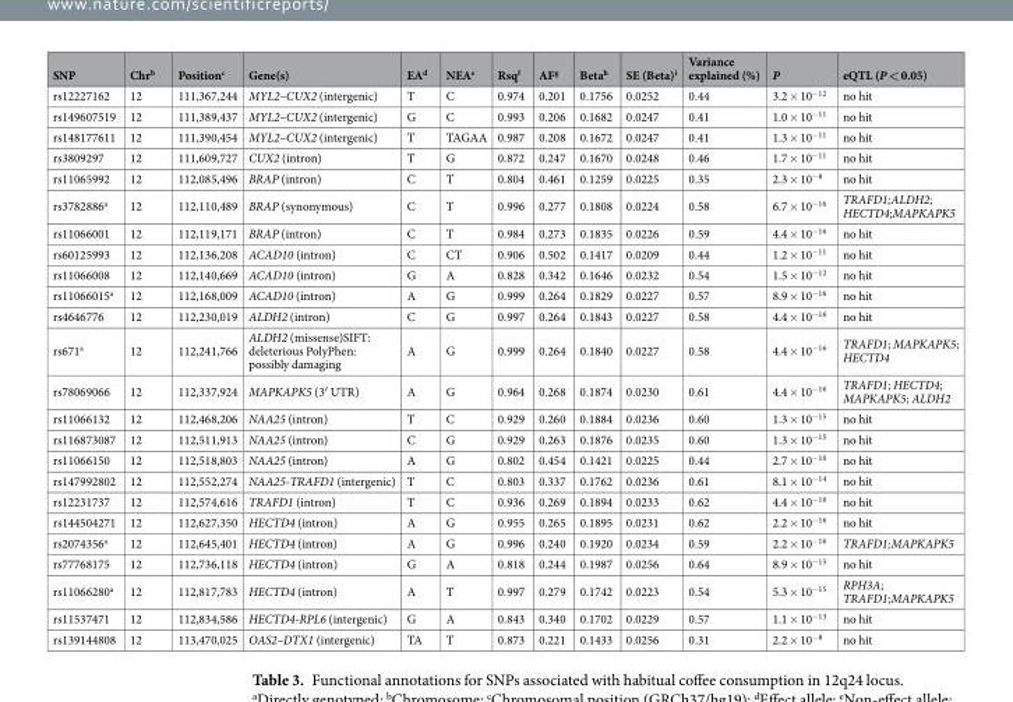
<table><thead><tr><td>SNP</td><td>Chr<sup>b</sup></td><td>Position<sup>c</sup></td><td>Gene(s)</td><td>EA<sup>d</sup></td><td>NEA<sup>e</sup></td><td>Rsq<sup>f</sup></td><td>AF<sup>g</sup></td><td>Beta<sup>h</sup></td><td>SE (Beta)<sup>i</sup></td><td>Variance explained (%)</td><td>P</td><td>eQTL (P &lt; 0.05)</td></tr></thead><tbody><tr><td>rs12227162</td><td>12</td><td>111,367,244</td><td>MYL2–CUX2 (intergenic)</td><td>T</td><td>C</td><td>0.974</td><td>0.201</td><td>0.1756</td><td>0.0252</td><td>0.44</td><td>3.2 × 10<sup>−12</sup></td><td>no hit</td></tr><tr><td>rs149607519</td><td>12</td><td>111,389,437</td><td>MYL2–CUX2 (intergenic)</td><td>G</td><td>C</td><td>0.993</td><td>0.206</td><td>0.1682</td><td>0.0247</td><td>0.41</td><td>1.0 × 10<sup>−11</sup></td><td>no hit</td></tr><tr><td>rs148177611</td><td>12</td><td>111,390,454</td><td>MYL2–CUX2 (intergenic)</td><td>T</td><td>TAGAA</td><td>0.987</td><td>0.208</td><td>0.1672</td><td>0.0247</td><td>0.41</td><td>1.3 × 10<sup>−11</sup></td><td>no hit</td></tr><tr><td>rs3809297</td><td>12</td><td>111,609,727</td><td>CUX2 (intron)</td><td>T</td><td>G</td><td>0.872</td><td>0.247</td><td>0.1670</td><td>0.0248</td><td>0.46</td><td>1.7 × 10<sup>−11</sup></td><td>no hit</td></tr><tr><td>rs11065992</td><td>12</td><td>112,085,496</td><td>BRAP (intron)</td><td>C</td><td>T</td><td>0.804</td><td>0.461</td><td>0.1259</td><td>0.0225</td><td>0.35</td><td>2.3 × 10<sup>−8</sup></td><td>no hit</td></tr><tr><td>rs3782886<sup>a</sup></td><td>12</td><td>112,110,489</td><td>BRAP (synonymous)</td><td>C</td><td>T</td><td>0.996</td><td>0.277</td><td>0.1808</td><td>0.0224</td><td>0.58</td><td>6.7 × 10<sup>−16</sup></td><td>TRAFD1;ALDH2; HECTD4;MAPKAPK5</td></tr><tr><td>rs11066001</td><td>12</td><td>112,119,171</td><td>BRAP (intron)</td><td>C</td><td>T</td><td>0.984</td><td>0.273</td><td>0.1835</td><td>0.0226</td><td>0.59</td><td>4.4 × 10<sup>−16</sup></td><td>no hit</td></tr><tr><td>rs60125993</td><td>12</td><td>112,136,208</td><td>ACAD10 (intron)</td><td>C</td><td>CT</td><td>0.906</td><td>0.502</td><td>0.1417</td><td>0.0209</td><td>0.44</td><td>1.2 × 10<sup>−11</sup></td><td>no hit</td></tr><tr><td>rs11066008</td><td>12</td><td>112,140,669</td><td>ACAD10 (intron)</td><td>G</td><td>A</td><td>0.828</td><td>0.342</td><td>0.1646</td><td>0.0232</td><td>0.54</td><td>1.5 × 10<sup>−12</sup></td><td>no hit</td></tr><tr><td>rs11066015<sup>a</sup></td><td>12</td><td>112,168,009</td><td>ACAD10 (intron)</td><td>A</td><td>G</td><td>0.999</td><td>0.264</td><td>0.1829</td><td>0.0227</td><td>0.57</td><td>8.9 × 10<sup>−16</sup></td><td>no hit</td></tr><tr><td>rs4646776</td><td>12</td><td>112,230,019</td><td>ALDH2 (intron)</td><td>C</td><td>G</td><td>0.997</td><td>0.264</td><td>0.1843</td><td>0.0227</td><td>0.58</td><td>4.4 × 10<sup>−16</sup></td><td>no hit</td></tr><tr><td>rs671<sup>a</sup></td><td>12</td><td>112,241,766</td><td>ALDH2 (missense)SIFT: deleterious PolyPhen: possibly damaging</td><td>A</td><td>G</td><td>0.999</td><td>0.264</td><td>0.1840</td><td>0.0227</td><td>0.58</td><td>4.4 × 10<sup>−16</sup></td><td>TRAFD1; MAPKAPK5; HECTD4</td></tr><tr><td>rs78069066</td><td>12</td><td>112,337,924</td><td>MAPKAPK5 (3′ UTR)</td><td>A</td><td>G</td><td>0.964</td><td>0.268</td><td>0.1874</td><td>0.0230</td><td>0.61</td><td>4.4 × 10<sup>−16</sup></td><td>TRAFD1; HECTD4; MAPKAPK5; ALDH2</td></tr><tr><td>rs11066132</td><td>12</td><td>112,468,206</td><td>NAA25 (intron)</td><td>T</td><td>C</td><td>0.929</td><td>0.260</td><td>0.1884</td><td>0.0236</td><td>0.60</td><td>1.3 × 10<sup>−15</sup></td><td>no hit</td></tr><tr><td>rs116873087</td><td>12</td><td>112,511,913</td><td>NAA25 (intron)</td><td>C</td><td>G</td><td>0.929</td><td>0.263</td><td>0.1876</td><td>0.0235</td><td>0.60</td><td>1.3 × 10<sup>−15</sup></td><td>no hit</td></tr><tr><td>rs11066150</td><td>12</td><td>112,518,803</td><td>NAA25 (intron)</td><td>A</td><td>G</td><td>0.802</td><td>0.454</td><td>0.1421</td><td>0.0225</td><td>0.44</td><td>2.7 × 10<sup>−10</sup></td><td>no hit</td></tr><tr><td>rs147992802</td><td>12</td><td>112,552,274</td><td>NAA25-TRAFD1 (intergenic)</td><td>T</td><td>C</td><td>0.803</td><td>0.337</td><td>0.1762</td><td>0.0236</td><td>0.61</td><td>8.1 × 10<sup>−14</sup></td><td>no hit</td></tr><tr><td>rs12231737</td><td>12</td><td>112,574,616</td><td>TRAFD1 (intron)</td><td>T</td><td>C</td><td>0.936</td><td>0.269</td><td>0.1894</td><td>0.0233</td><td>0.62</td><td>4.4 × 10<sup>−16</sup></td><td>no hit</td></tr><tr><td>rs144504271</td><td>12</td><td>112,627,350</td><td>HECTD4 (intron)</td><td>A</td><td>G</td><td>0.955</td><td>0.265</td><td>0.1895</td><td>0.0231</td><td>0.62</td><td>2.2 × 10<sup>−16</sup></td><td>no hit</td></tr><tr><td>rs2074356<sup>a</sup></td><td>12</td><td>112,645,401</td><td>HECTD4 (intron)</td><td>A</td><td>G</td><td>0.996</td><td>0.240</td><td>0.1920</td><td>0.0234</td><td>0.59</td><td>2.2 × 10<sup>−16</sup></td><td>TRAFD1;MAPKAPK5</td></tr><tr><td>rs77768175</td><td>12</td><td>112,736,118</td><td>HECTD4 (intron)</td><td>G</td><td>A</td><td>0.818</td><td>0.244</td><td>0.1987</td><td>0.0256</td><td>0.64</td><td>8.9 × 10<sup>−15</sup></td><td>no hit</td></tr><tr><td>rs11066280<sup>a</sup></td><td>12</td><td>112,817,783</td><td>HECTD4 (intron)</td><td>A</td><td>T</td><td>0.997</td><td>0.279</td><td>0.1742</td><td>0.0223</td><td>0.54</td><td>5.3 × 10<sup>−15</sup></td><td>RPH3A; TRAFD1;MAPKAPK5</td></tr><tr><td>rs11537471</td><td>12</td><td>112,834,586</td><td>HECTD4-RPL6 (intergenic)</td><td>G</td><td>A</td><td>0.843</td><td>0.340</td><td>0.1702</td><td>0.0229</td><td>0.57</td><td>1.1 × 10<sup>−13</sup></td><td>no hit</td></tr><tr><td>rs139144808</td><td>12</td><td>113,470,025</td><td>OAS2–DTX1 (intergenic)</td><td>TA</td><td>T</td><td>0.873</td><td>0.221</td><td>0.1433</td><td>0.0256</td><td>0.31</td><td>2.2 × 10<sup>−8</sup></td><td>no hit</td></tr></tbody></table>